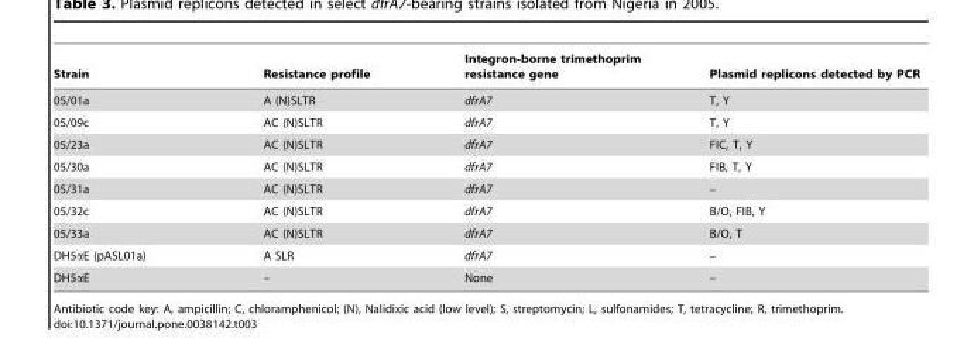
<table><thead><tr><td>Strain</td><td>Resistance profile</td><td>Integron-borne trimethoprim resistance gene</td><td>Plasmid replicons detected by PCR</td></tr></thead><tbody><tr><td>05/01a</td><td>A (N)SLTR</td><td>dfrA7</td><td>T, Y</td></tr><tr><td>05/09c</td><td>AC (N)SLTR</td><td>dfrA7</td><td>T, Y</td></tr><tr><td>05/23a</td><td>AC (N)SLTR</td><td>dfrA7</td><td>FIC, T, Y</td></tr><tr><td>05/30a</td><td>AC (N)SLTR</td><td>dfrA7</td><td>FIB, T, Y</td></tr><tr><td>05/31a</td><td>AC (N)SLTR</td><td>dfrA7</td><td>–</td></tr><tr><td>05/32c</td><td>AC (N)SLTR</td><td>dfrA7</td><td>B/O, FIB, Y</td></tr><tr><td>05/33a</td><td>AC (N)SLTR</td><td>dfrA7</td><td>B/O, T</td></tr><tr><td>DH5αE (pASL01a)</td><td>A SLR</td><td>dfrA7</td><td>–</td></tr><tr><td>DH5αE</td><td>–</td><td>None</td><td>–</td></tr></tbody></table>